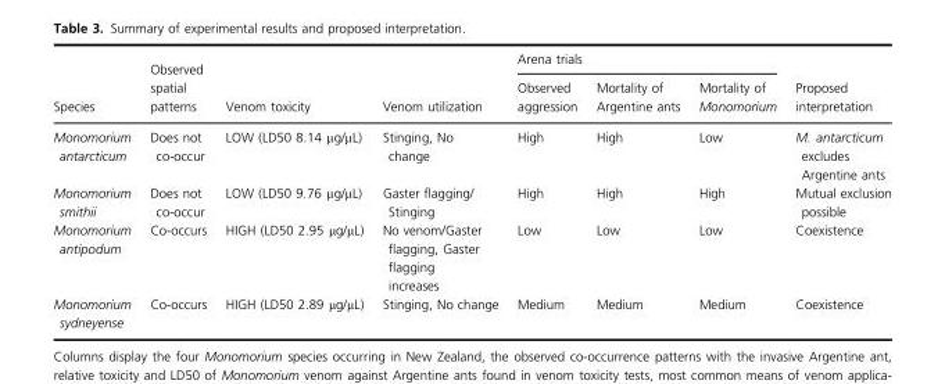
<table><thead><tr><td rowspan="2">Species</td><td rowspan="2">Observed spatial patterns</td><td rowspan="2">Venom toxicity</td><td rowspan="2">Venom utilization</td><td colspan="3">Arena trials</td><td rowspan="2">Proposed interpretation</td></tr><tr><td>Observed aggression</td><td>Mortality of Argentine ants</td><td>Mortality of Monomorium</td></tr></thead><tbody><tr><td>Monomorium antarcticum</td><td>Does not co-occur</td><td>LOW (LD50 8.14 μg/μL)</td><td>Stinging, No change</td><td>High</td><td>High</td><td>Low</td><td>M. antarcticum excludes Argentine ants</td></tr><tr><td>Monomorium smithii</td><td>Does not co-occur</td><td>LOW (LD50 9.76 μg/μL)</td><td>Gaster flagging/ Stinging</td><td>High</td><td>High</td><td>High</td><td>Mutual exclusion possible</td></tr><tr><td>Monomorium antipodum</td><td>Co-occurs</td><td>HIGH (LD50 2.95 μg/μL)</td><td>No venom/Gaster flagging, Gaster flagging increases</td><td>Low</td><td>Low</td><td>Low</td><td>Coexistence</td></tr><tr><td>Monomorium sydneyense</td><td>Co-occurs</td><td>HIGH (LD50 2.89 μg/μL)</td><td>Stinging, No change</td><td>Medium</td><td>Medium</td><td>Medium</td><td>Coexistence</td></tr></tbody></table>